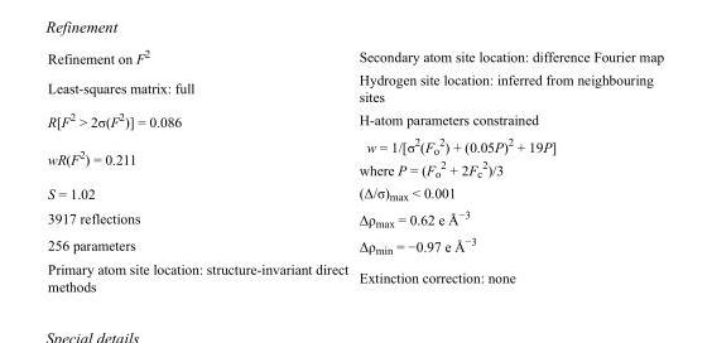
<table><tbody><tr><td>Refinement on F<sup>2</sup></td><td>Secondary atom site location: difference Fourier map</td></tr><tr><td>Least-squares matrix: full</td><td>Hydrogen site location: inferred from neighbouring sites</td></tr><tr><td>R[F<sup>2</sup> &gt; 2σ(F<sup>2</sup>)] = 0.086</td><td>H-atom parameters constrained</td></tr><tr><td>wR(F<sup>2</sup>) = 0.211</td><td>w = 1/[σ<sup>2</sup>(F<sub>o</sub> <sup>2</sup>) + (0.05P)<sup>2</sup> + 19P] where P = (F<sub>o</sub> <sup>2</sup> + 2F<sub>c</sub> <sup>2</sup>)/3</td></tr><tr><td>S = 1.02</td><td>(Δ/σ)<sub>max</sub> &lt; 0.001</td></tr><tr><td>3917 reflections</td><td>Δρ<sub>max</sub> = 0.62 e Å<sup>−3</sup></td></tr><tr><td>256 parameters</td><td>Δρ<sub>min</sub> = −0.97 e Å<sup>−3</sup></td></tr><tr><td>Primary atom site location: structure-invariant direct methods</td><td>Extinction correction: none</td></tr></tbody></table>